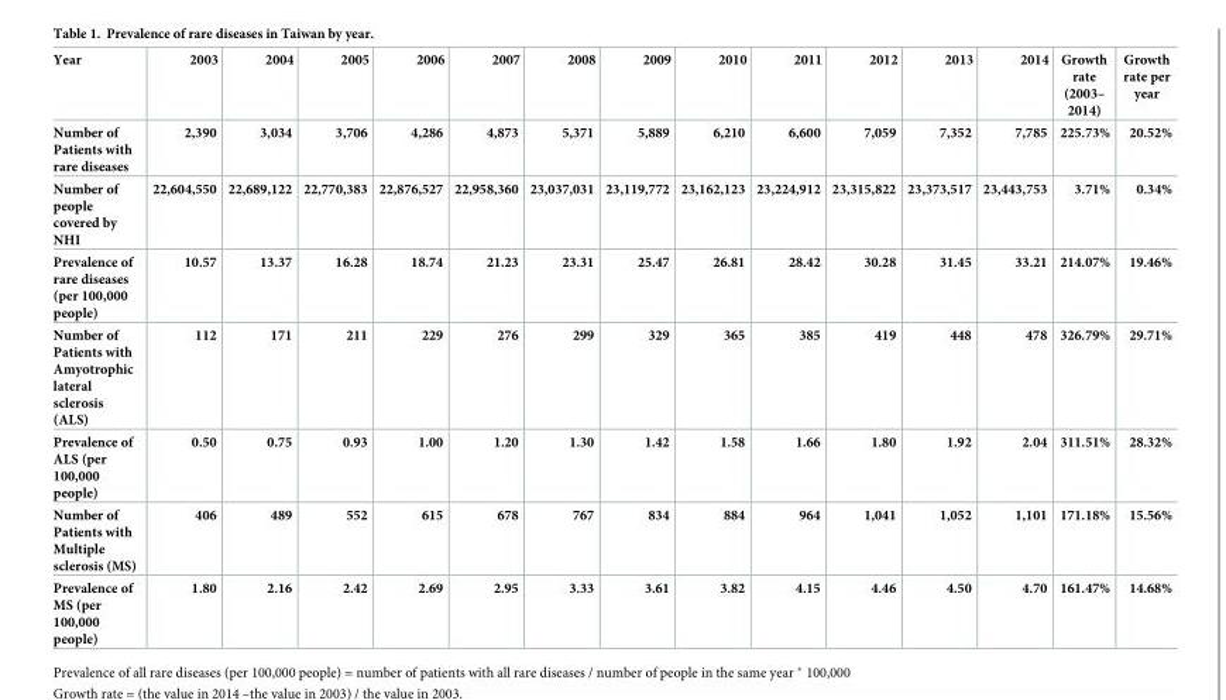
<table><thead><tr><td>Year</td><td>2003</td><td>2004</td><td>2005</td><td>2006</td><td>2007</td><td>2008</td><td>2009</td><td>2010</td><td>2011</td><td>2012</td><td>2013</td><td>2014</td><td>Growth rate (2003– 2014)</td><td>Growth rate per year</td></tr></thead><tbody><tr><td>Number of Patients with rare diseases</td><td>2,390</td><td>3,034</td><td>3,706</td><td>4,286</td><td>4,873</td><td>5,371</td><td>5,889</td><td>6,210</td><td>6,600</td><td>7,059</td><td>7,352</td><td>7,785</td><td>225.73%</td><td>20.52%</td></tr><tr><td>Number of people covered by NHI</td><td>22,604,550</td><td>22,689,122</td><td>22,770,383</td><td>22,876,527</td><td>22,958,360</td><td>23,037,031</td><td>23,119,772</td><td>23,162,123</td><td>23,224,912</td><td>23,315,822</td><td>23,373,517</td><td>23,443,753</td><td>3.71%</td><td>0.34%</td></tr><tr><td>Prevalence of rare diseases (per 100,000 people)</td><td>10.57</td><td>13.37</td><td>16.28</td><td>18.74</td><td>21.23</td><td>23.31</td><td>25.47</td><td>26.81</td><td>28.42</td><td>30.28</td><td>31.45</td><td>33.21</td><td>214.07%</td><td>19.46%</td></tr><tr><td>Number of Patients with Amyotrophic lateral sclerosis (ALS)</td><td>112</td><td>171</td><td>211</td><td>229</td><td>276</td><td>299</td><td>329</td><td>365</td><td>385</td><td>419</td><td>448</td><td>478</td><td>326.79%</td><td>29.71%</td></tr><tr><td>Prevalence of ALS (per 100,000 people)</td><td>0.50</td><td>0.75</td><td>0.93</td><td>1.00</td><td>1.20</td><td>1.30</td><td>1.42</td><td>1.58</td><td>1.66</td><td>1.80</td><td>1.92</td><td>2.04</td><td>311.51%</td><td>28.32%</td></tr><tr><td>Number of Patients with Multiple sclerosis (MS)</td><td>406</td><td>489</td><td>552</td><td>615</td><td>678</td><td>767</td><td>834</td><td>884</td><td>964</td><td>1,041</td><td>1,052</td><td>1,101</td><td>171.18%</td><td>15.56%</td></tr><tr><td>Prevalence of MS (per 100,000 people)</td><td>1.80</td><td>2.16</td><td>2.42</td><td>2.69</td><td>2.95</td><td>3.33</td><td>3.61</td><td>3.82</td><td>4.15</td><td>4.46</td><td>4.50</td><td>4.70</td><td>161.47%</td><td>14.68%</td></tr></tbody></table>